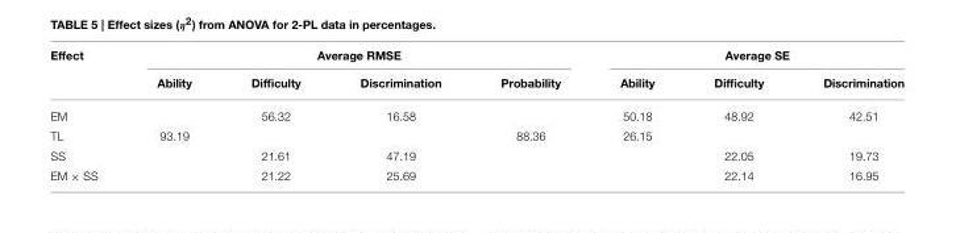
<table><thead><tr><td rowspan="2">Effect</td><td colspan="4">Average RMSE</td><td colspan="3">Average SE</td></tr><tr><td>Ability</td><td>Difficulty</td><td>Discrimination</td><td>Probability</td><td>Ability</td><td>Difficulty</td><td>Discrimination</td></tr></thead><tbody><tr><td>EM</td><td></td><td>56.32</td><td>16.58</td><td></td><td>50.18</td><td>48.92</td><td>42.51</td></tr><tr><td>TL</td><td>93.19</td><td></td><td></td><td>88.36</td><td>26.15</td><td></td><td></td></tr><tr><td>SS</td><td></td><td>21.61</td><td>47.19</td><td></td><td></td><td>22.05</td><td>19.73</td></tr><tr><td>EM × SS</td><td></td><td>21.22</td><td>25.69</td><td></td><td></td><td>22.14</td><td>16.95</td></tr></tbody></table>